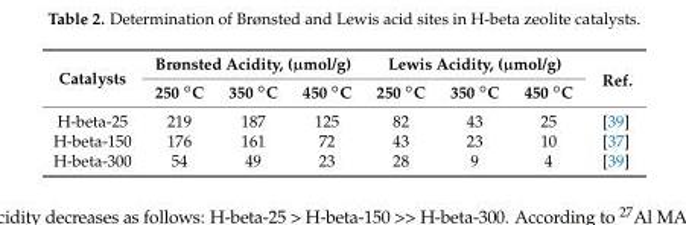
<table><thead><tr><td rowspan="2">Catalysts</td><td colspan="3">Brønsted Acidity, (µmol/g)</td><td colspan="3">Lewis Acidity, (µmol/g)</td><td rowspan="2">Ref.</td></tr><tr><td>250 ◦C</td><td>350 ◦C</td><td>450 ◦C</td><td>250 ◦C</td><td>350 ◦C</td><td>450 ◦C</td></tr></thead><tbody><tr><td>H-beta-25</td><td>219</td><td>187</td><td>125</td><td>82</td><td>43</td><td>25</td><td>[39]</td></tr><tr><td>H-beta-150</td><td>176</td><td>161</td><td>72</td><td>43</td><td>23</td><td>10</td><td>[37]</td></tr><tr><td>H-beta-300</td><td>54</td><td>49</td><td>23</td><td>28</td><td>9</td><td>4</td><td>[39]</td></tr></tbody></table>